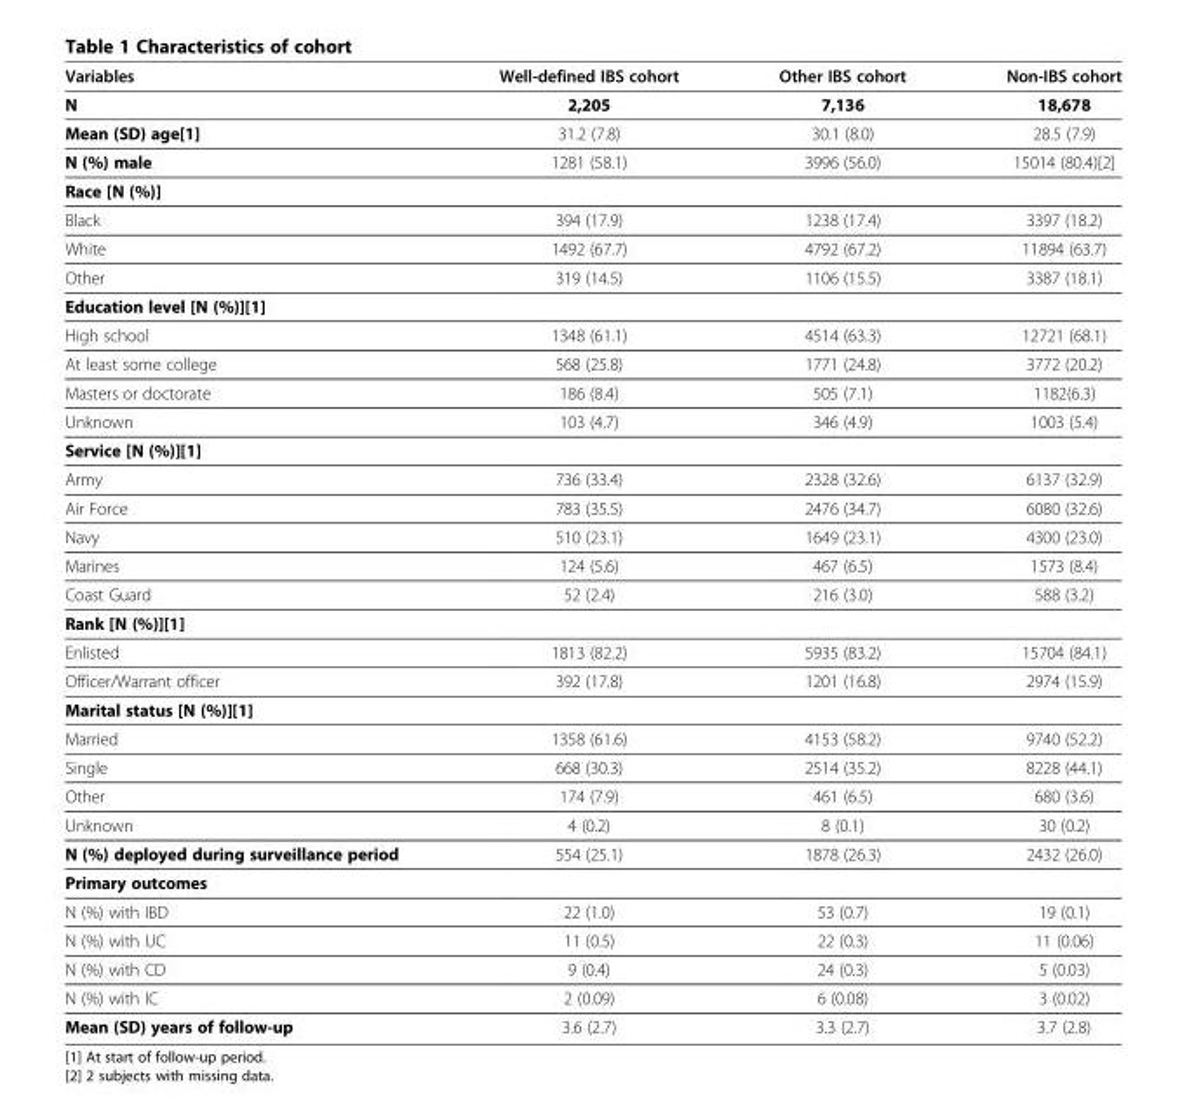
<table><thead><tr><td>Variables</td><td>Well-defined IBS cohort</td><td>Other IBS cohort</td><td>Non-IBS cohort</td></tr></thead><tbody><tr><td>N</td><td>2,205</td><td>7,136</td><td>18,678</td></tr><tr><td>Mean (SD) age[1]</td><td>31.2 (7.8)</td><td>30.1 (8.0)</td><td>28.5 (7.9)</td></tr><tr><td>N (%) male</td><td>1281 (58.1)</td><td>3996 (56.0)</td><td>15014 (80.4)[2]</td></tr><tr><td colspan="4">Race [N (%)]</td></tr><tr><td>Black</td><td>394 (17.9)</td><td>1238 (17.4)</td><td>3397 (18.2)</td></tr><tr><td>White</td><td>1492 (67.7)</td><td>4792 (67.2)</td><td>11894 (63.7)</td></tr><tr><td>Other</td><td>319 (14.5)</td><td>1106 (15.5)</td><td>3387 (18.1)</td></tr><tr><td colspan="4">Education level [N (%)][1]</td></tr><tr><td>High school</td><td>1348 (61.1)</td><td>4514 (63.3)</td><td>12721 (68.1)</td></tr><tr><td>At least some college</td><td>568 (25.8)</td><td>1771 (24.8)</td><td>3772 (20.2)</td></tr><tr><td>Masters or doctorate</td><td>186 (8.4)</td><td>505 (7.1)</td><td>1182(6.3)</td></tr><tr><td>Unknown</td><td>103 (4.7)</td><td>346 (4.9)</td><td>1003 (5.4)</td></tr><tr><td colspan="4">Service [N (%)][1]</td></tr><tr><td>Army</td><td>736 (33.4)</td><td>2328 (32.6)</td><td>6137 (32.9)</td></tr><tr><td>Air Force</td><td>783 (35.5)</td><td>2476 (34.7)</td><td>6080 (32.6)</td></tr><tr><td>Navy</td><td>510 (23.1)</td><td>1649 (23.1)</td><td>4300 (23.0)</td></tr><tr><td>Marines</td><td>124 (5.6)</td><td>467 (6.5)</td><td>1573 (8.4)</td></tr><tr><td>Coast Guard</td><td>52 (2.4)</td><td>216 (3.0)</td><td>588 (3.2)</td></tr><tr><td colspan="4">Rank [N (%)][1]</td></tr><tr><td>Enlisted</td><td>1813 (82.2)</td><td>5935 (83.2)</td><td>15704 (84.1)</td></tr><tr><td>Officer/Warrant officer</td><td>392 (17.8)</td><td>1201 (16.8)</td><td>2974 (15.9)</td></tr><tr><td colspan="4">Marital status [N (%)][1]</td></tr><tr><td>Married</td><td>1358 (61.6)</td><td>4153 (58.2)</td><td>9740 (52.2)</td></tr><tr><td>Single</td><td>668 (30.3)</td><td>2514 (35.2)</td><td>8228 (44.1)</td></tr><tr><td>Other</td><td>174 (7.9)</td><td>461 (6.5)</td><td>680 (3.6)</td></tr><tr><td>Unknown</td><td>4 (0.2)</td><td>8 (0.1)</td><td>30 (0.2)</td></tr><tr><td>N (%) deployed during surveillance period</td><td>554 (25.1)</td><td>1878 (26.3)</td><td>2432 (26.0)</td></tr><tr><td colspan="4">Primary outcomes</td></tr><tr><td>N (%) with IBD</td><td>22 (1.0)</td><td>53 (0.7)</td><td>19 (0.1)</td></tr><tr><td>N (%) with UC</td><td>11 (0.5)</td><td>22 (0.3)</td><td>11 (0.06)</td></tr><tr><td>N (%) with CD</td><td>9 (0.4)</td><td>24 (0.3)</td><td>5 (0.03)</td></tr><tr><td>N (%) with IC</td><td>2 (0.09)</td><td>6 (0.08)</td><td>3 (0.02)</td></tr><tr><td>Mean (SD) years of follow-up</td><td>3.6 (2.7)</td><td>3.3 (2.7)</td><td>3.7 (2.8)</td></tr></tbody></table>